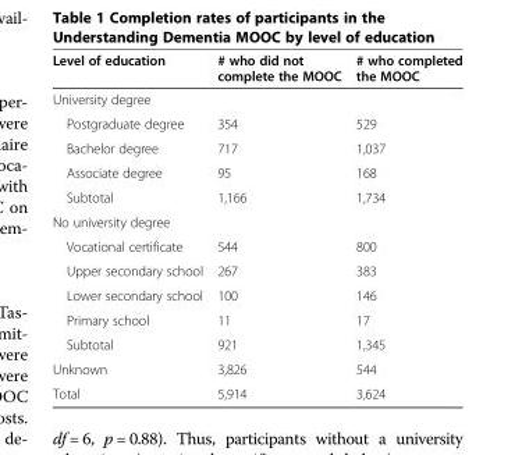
<table><thead><tr><td>Level of education</td><td># who did not complete the MOOC</td><td># who completed the MOOC</td></tr></thead><tbody><tr><td colspan="3">University degree</td></tr><tr><td>Postgraduate degree</td><td>354</td><td>529</td></tr><tr><td>Bachelor degree</td><td>717</td><td>1,037</td></tr><tr><td>Associate degree</td><td>95</td><td>168</td></tr><tr><td>Subtotal</td><td>1,166</td><td>1,734</td></tr><tr><td colspan="3">No university degree</td></tr><tr><td>Vocational certificate</td><td>544</td><td>800</td></tr><tr><td>Upper secondary school</td><td>267</td><td>383</td></tr><tr><td>Lower secondary school</td><td>100</td><td>146</td></tr><tr><td>Primary school</td><td>11</td><td>17</td></tr><tr><td>Subtotal</td><td>921</td><td>1,345</td></tr><tr><td>Unknown</td><td>3,826</td><td>544</td></tr><tr><td>Total</td><td>5,914</td><td>3,624</td></tr></tbody></table>